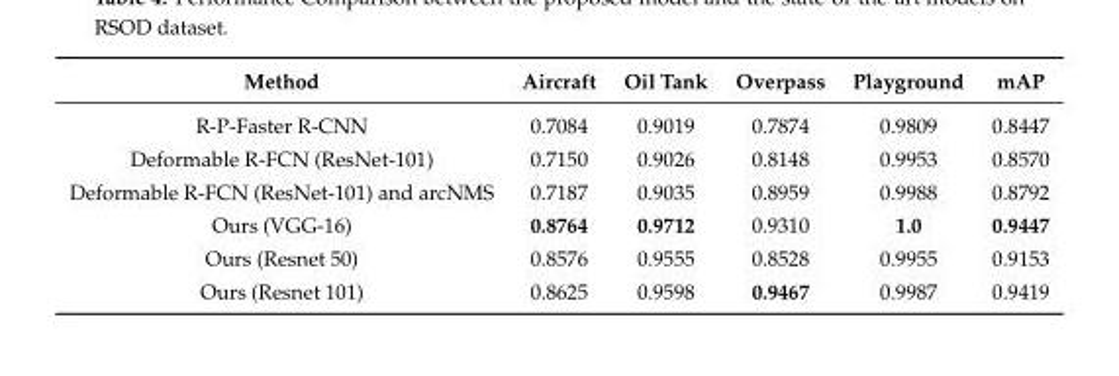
<table><thead><tr><td>Method</td><td>Aircraft</td><td>Oil Tank</td><td>Overpass</td><td>Playground</td><td>mAP</td></tr></thead><tbody><tr><td>R-P-Faster R-CNN</td><td>0.7084</td><td>0.9019</td><td>0.7874</td><td>0.9809</td><td>0.8447</td></tr><tr><td>Deformable R-FCN (ResNet-101)</td><td>0.7150</td><td>0.9026</td><td>0.8148</td><td>0.9953</td><td>0.8570</td></tr><tr><td>Deformable R-FCN (ResNet-101) and arcNMS</td><td>0.7187</td><td>0.9035</td><td>0.8959</td><td>0.9988</td><td>0.8792</td></tr><tr><td>Ours (VGG-16)</td><td>0.8764</td><td>0.9712</td><td>0.9310</td><td>1.0</td><td>0.9447</td></tr><tr><td>Ours (Resnet 50)</td><td>0.8576</td><td>0.9555</td><td>0.8528</td><td>0.9955</td><td>0.9153</td></tr><tr><td>Ours (Resnet 101)</td><td>0.8625</td><td>0.9598</td><td>0.9467</td><td>0.9987</td><td>0.9419</td></tr></tbody></table>